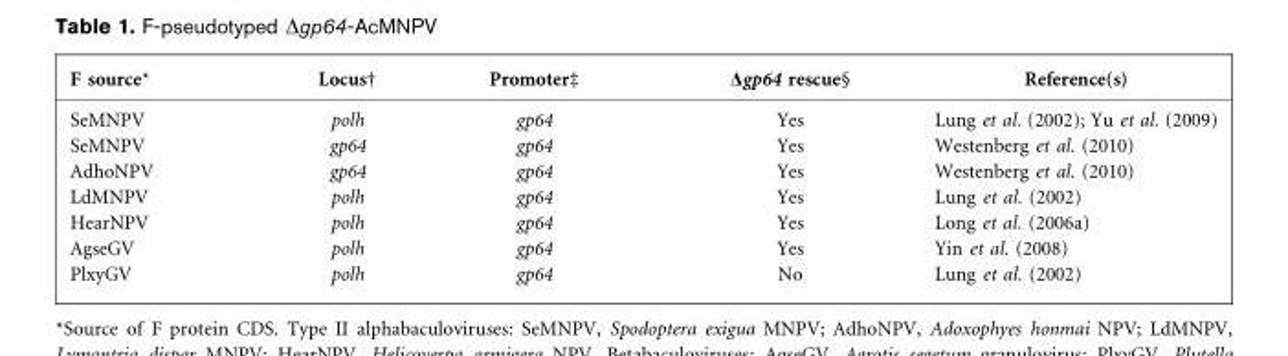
<table><thead><tr><td>F source*</td><td>Locus†</td><td>Promoter‡</td><td>Δgp64 rescue§</td><td>Reference(s)</td></tr></thead><tbody><tr><td>SeMNPV</td><td>polh</td><td>gp64</td><td>Yes</td><td>Lung et al. (2002); Yu et al. (2009)</td></tr><tr><td>SeMNPV</td><td>gp64</td><td>gp64</td><td>Yes</td><td>Westenberg et al. (2010)</td></tr><tr><td>AdhoNPV</td><td>gp64</td><td>gp64</td><td>Yes</td><td>Westenberg et al. (2010)</td></tr><tr><td>LdMNPV</td><td>polh</td><td>gp64</td><td>Yes</td><td>Lung et al. (2002)</td></tr><tr><td>HearNPV</td><td>polh</td><td>gp64</td><td>Yes</td><td>Long et al. (2006a)</td></tr><tr><td>AgseGV</td><td>polh</td><td>gp64</td><td>Yes</td><td>Yin et al. (2008)</td></tr><tr><td>PlxyGV</td><td>polh</td><td>gp64</td><td>No</td><td>Lung et al. (2002)</td></tr></tbody></table>